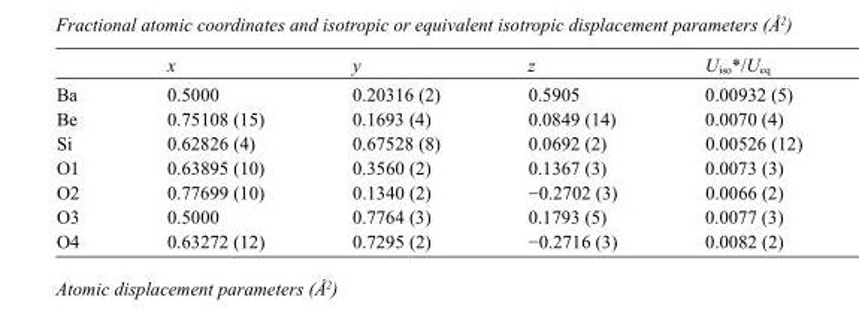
<table><thead><tr><td></td><td>x</td><td>y</td><td>z</td><td>U<sub>iso</sub>*/U<sub>eq</sub></td></tr></thead><tbody><tr><td>Ba</td><td>0.5000</td><td>0.20316 (2)</td><td>0.5905</td><td>0.00932 (5)</td></tr><tr><td>Be</td><td>0.75108 (15)</td><td>0.1693 (4)</td><td>0.0849 (14)</td><td>0.0070 (4)</td></tr><tr><td>Si</td><td>0.62826 (4)</td><td>0.67528 (8)</td><td>0.0692 (2)</td><td>0.00526 (12)</td></tr><tr><td>O1</td><td>0.63895 (10)</td><td>0.3560 (2)</td><td>0.1367 (3)</td><td>0.0073 (3)</td></tr><tr><td>O2</td><td>0.77699 (10)</td><td>0.1340 (2)</td><td>−0.2702 (3)</td><td>0.0066 (2)</td></tr><tr><td>O3</td><td>0.5000</td><td>0.7764 (3)</td><td>0.1793 (5)</td><td>0.0077 (3)</td></tr><tr><td>O4</td><td>0.63272 (12)</td><td>0.7295 (2)</td><td>−0.2716 (3)</td><td>0.0082 (2)</td></tr></tbody></table>